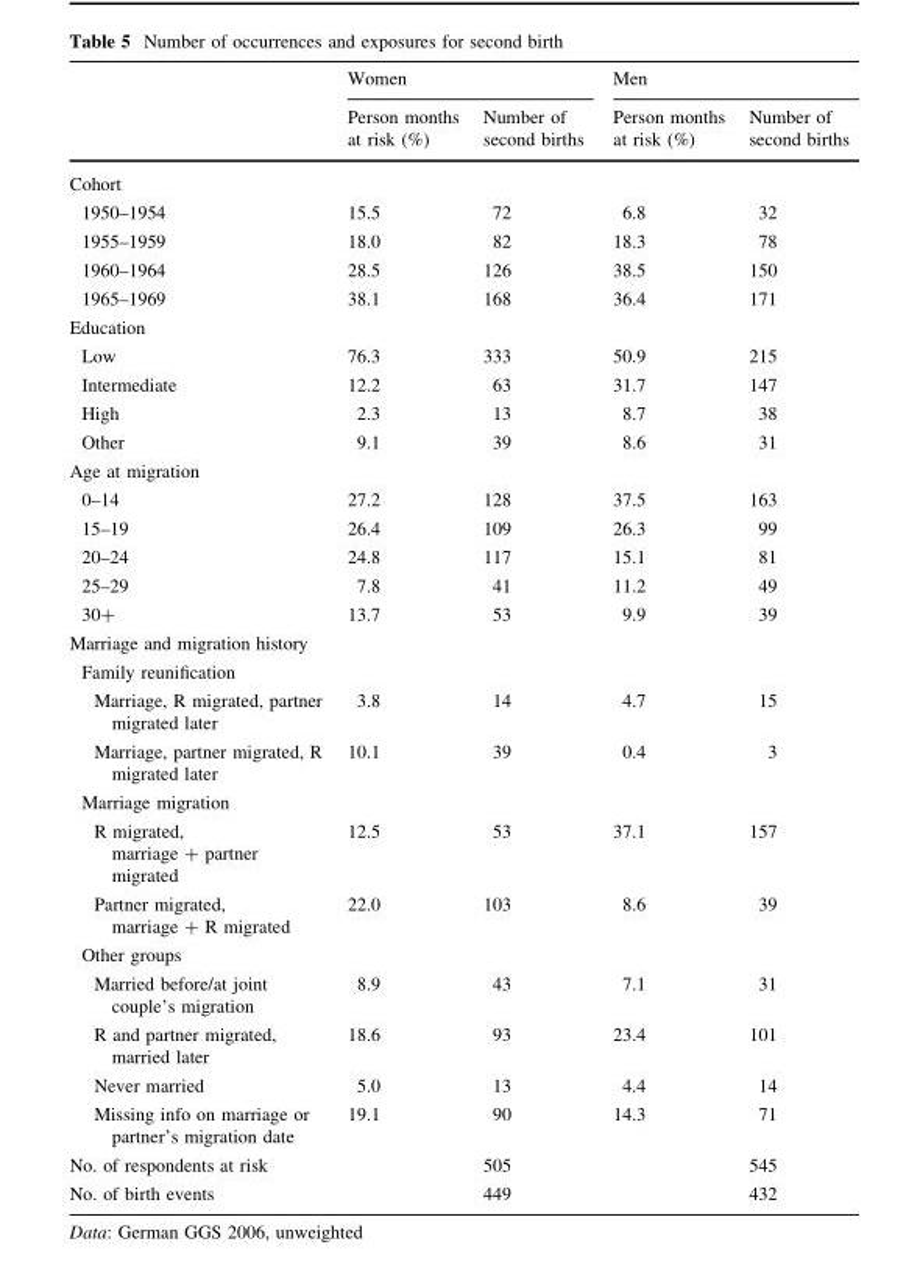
<table><thead><tr><td rowspan="2"></td><td colspan="2">Women</td><td colspan="2">Men</td></tr><tr><td>Person months at risk (%)</td><td>Number of second births</td><td>Person months at risk (%)</td><td>Number of second births</td></tr></thead><tbody><tr><td colspan="5">Cohort</td></tr><tr><td>1950–1954</td><td>15.5</td><td>72</td><td>6.8</td><td>32</td></tr><tr><td>1955–1959</td><td>18.0</td><td>82</td><td>18.3</td><td>78</td></tr><tr><td>1960–1964</td><td>28.5</td><td>126</td><td>38.5</td><td>150</td></tr><tr><td>1965–1969</td><td>38.1</td><td>168</td><td>36.4</td><td>171</td></tr><tr><td colspan="5">Education</td></tr><tr><td>Low</td><td>76.3</td><td>333</td><td>50.9</td><td>215</td></tr><tr><td>Intermediate</td><td>12.2</td><td>63</td><td>31.7</td><td>147</td></tr><tr><td>High</td><td>2.3</td><td>13</td><td>8.7</td><td>38</td></tr><tr><td>Other</td><td>9.1</td><td>39</td><td>8.6</td><td>31</td></tr><tr><td colspan="5">Age at migration</td></tr><tr><td>0–14</td><td>27.2</td><td>128</td><td>37.5</td><td>163</td></tr><tr><td>15–19</td><td>26.4</td><td>109</td><td>26.3</td><td>99</td></tr><tr><td>20–24</td><td>24.8</td><td>117</td><td>15.1</td><td>81</td></tr><tr><td>25–29</td><td>7.8</td><td>41</td><td>11.2</td><td>49</td></tr><tr><td>30+</td><td>13.7</td><td>53</td><td>9.9</td><td>39</td></tr><tr><td colspan="5">Marriage and migration history</td></tr><tr><td colspan="5">Family reunification</td></tr><tr><td>Marriage, R migrated, partner migrated later</td><td>3.8</td><td>14</td><td>4.7</td><td>15</td></tr><tr><td>Marriage, partner migrated, R migrated later</td><td>10.1</td><td>39</td><td>0.4</td><td>3</td></tr><tr><td colspan="5">Marriage migration</td></tr><tr><td>R migrated, marriage + partner migrated</td><td>12.5</td><td>53</td><td>37.1</td><td>157</td></tr><tr><td>Partner migrated, marriage + R migrated</td><td>22.0</td><td>103</td><td>8.6</td><td>39</td></tr><tr><td colspan="5">Other groups</td></tr><tr><td>Married before/at joint couple’s migration</td><td>8.9</td><td>43</td><td>7.1</td><td>31</td></tr><tr><td>R and partner migrated, married later</td><td>18.6</td><td>93</td><td>23.4</td><td>101</td></tr><tr><td>Never married</td><td>5.0</td><td>13</td><td>4.4</td><td>14</td></tr><tr><td>Missing info on marriage or partner’s migration date</td><td>19.1</td><td>90</td><td>14.3</td><td>71</td></tr><tr><td>No. of respondents at risk</td><td></td><td>505</td><td></td><td>545</td></tr><tr><td>No. of birth events</td><td></td><td>449</td><td></td><td>432</td></tr></tbody></table>